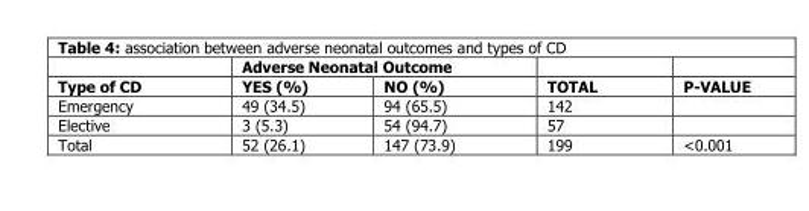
<table><thead><tr><td rowspan="2">Type of CD</td><td colspan="2">Adverse Neonatal Outcome</td><td rowspan="2">TOTAL</td><td rowspan="2">P-VALUE</td></tr><tr><td>YES (%)</td><td>NO (%)</td></tr></thead><tbody><tr><td>Emergency</td><td>49 (34.5)</td><td>94 (65.5)</td><td>142</td><td></td></tr><tr><td>Elective</td><td>3 (5.3)</td><td>54 (94.7)</td><td>57</td><td></td></tr><tr><td>Total</td><td>52 (26.1)</td><td>147 (73.9)</td><td>199</td><td>&lt;0.001</td></tr></tbody></table>